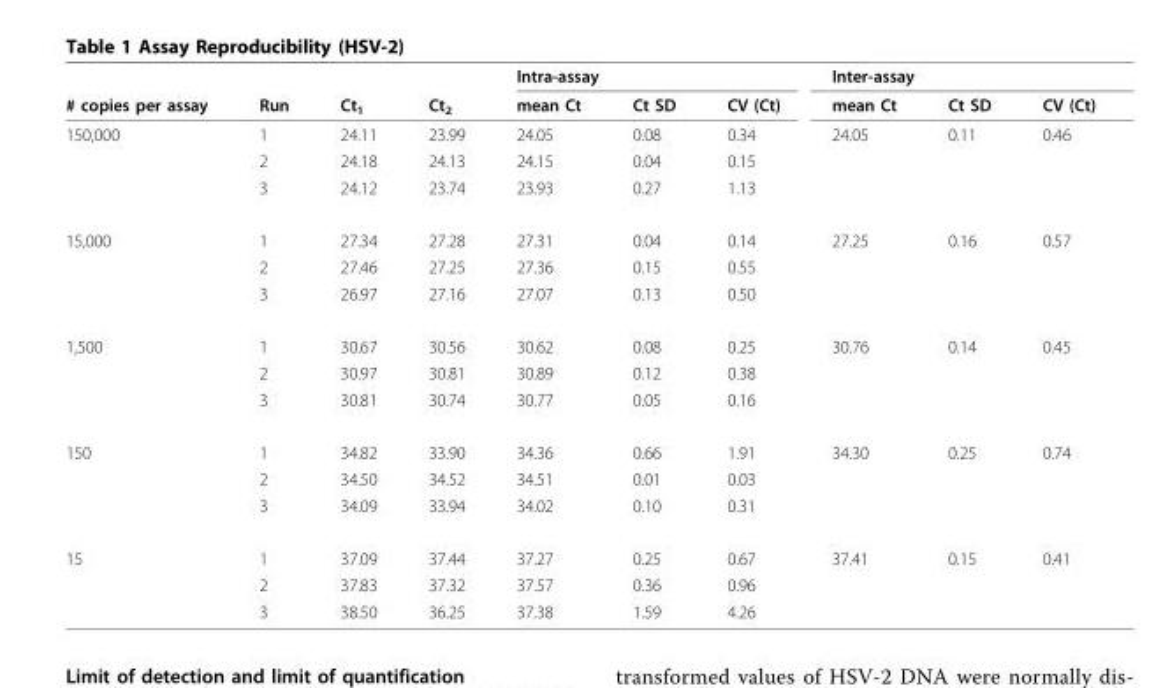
<table><thead><tr><td rowspan="2"># copies per assay</td><td rowspan="2">Run</td><td rowspan="2">Ct<sub>1</sub></td><td rowspan="2">Ct<sub>2</sub></td><td colspan="3">Intra-assay</td><td colspan="3">Inter-assay</td></tr><tr><td>mean Ct</td><td>Ct SD</td><td>CV (Ct)</td><td>mean Ct</td><td>Ct SD</td><td>CV (Ct)</td></tr></thead><tbody><tr><td rowspan="3">150,000</td><td>1</td><td>24.11</td><td>23.99</td><td>24.05</td><td>0.08</td><td>0.34</td><td>24.05</td><td>0.11</td><td>0.46</td></tr><tr><td>2</td><td>24.18</td><td>24.13</td><td>24.15</td><td>0.04</td><td>0.15</td><td></td><td></td><td></td></tr><tr><td>3</td><td>24.12</td><td>23.74</td><td>23.93</td><td>0.27</td><td>1.13</td><td></td><td></td><td></td></tr><tr><td rowspan="3">15,000</td><td>1</td><td>27.34</td><td>27.28</td><td>27.31</td><td>0.04</td><td>0.14</td><td>27.25</td><td>0.16</td><td>0.57</td></tr><tr><td>2</td><td>27.46</td><td>27.25</td><td>27.36</td><td>0.15</td><td>0.55</td><td></td><td></td><td></td></tr><tr><td>3</td><td>26.97</td><td>27.16</td><td>27.07</td><td>0.13</td><td>0.50</td><td></td><td></td><td></td></tr><tr><td rowspan="3">1,500</td><td>1</td><td>30.67</td><td>30.56</td><td>30.62</td><td>0.08</td><td>0.25</td><td>30.76</td><td>0.14</td><td>0.45</td></tr><tr><td>2</td><td>30.97</td><td>30.81</td><td>30.89</td><td>0.12</td><td>0.38</td><td></td><td></td><td></td></tr><tr><td>3</td><td>30.81</td><td>30.74</td><td>30.77</td><td>0.05</td><td>0.16</td><td></td><td></td><td></td></tr><tr><td rowspan="3">150</td><td>1</td><td>34.82</td><td>33.90</td><td>34.36</td><td>0.66</td><td>1.91</td><td>34.30</td><td>0.25</td><td>0.74</td></tr><tr><td>2</td><td>34.50</td><td>34.52</td><td>34.51</td><td>0.01</td><td>0.03</td><td></td><td></td><td></td></tr><tr><td>3</td><td>34.09</td><td>33.94</td><td>34.02</td><td>0.10</td><td>0.31</td><td></td><td></td><td></td></tr><tr><td rowspan="3">15</td><td>1</td><td>37.09</td><td>37.44</td><td>37.27</td><td>0.25</td><td>0.67</td><td>37.41</td><td>0.15</td><td>0.41</td></tr><tr><td>2</td><td>37.83</td><td>37.32</td><td>37.57</td><td>0.36</td><td>0.96</td><td></td><td></td><td></td></tr><tr><td>3</td><td>38.50</td><td>36.25</td><td>37.38</td><td>1.59</td><td>4.26</td><td></td><td></td><td></td></tr></tbody></table>